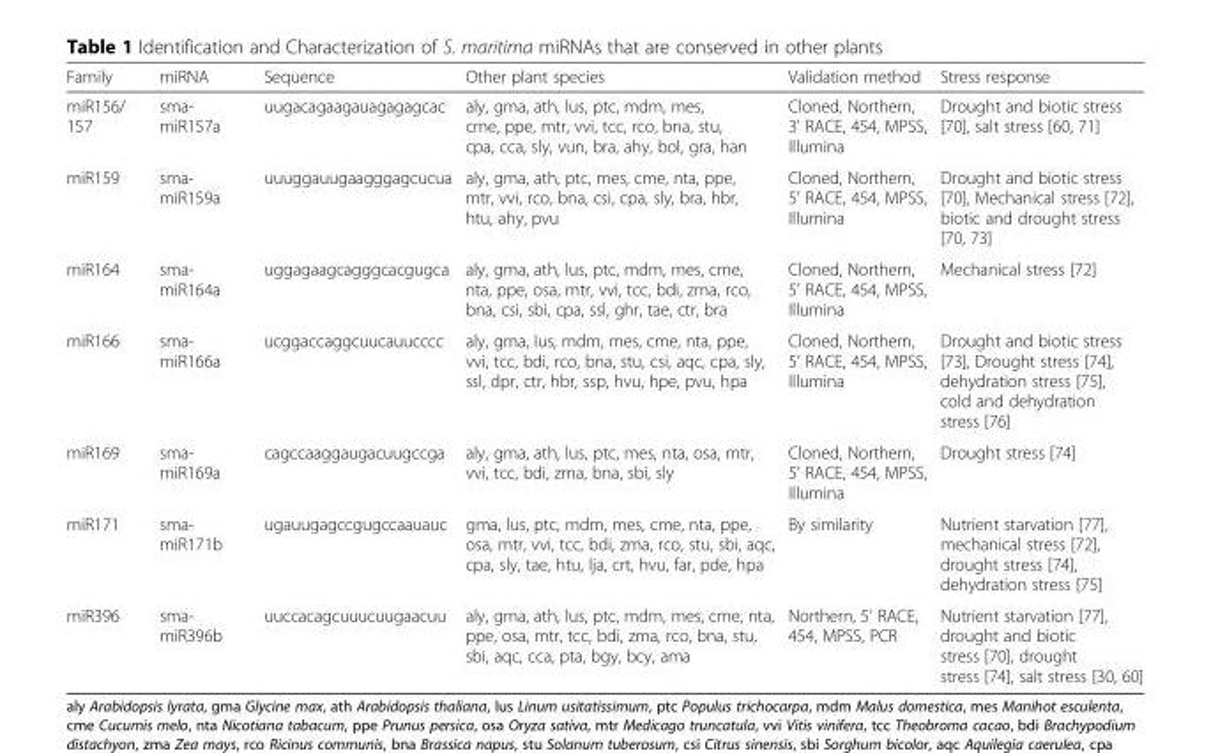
<table><thead><tr><td>Family</td><td>miRNA</td><td>Sequence</td><td>Other plant species</td><td>Validation method</td><td>Stress response</td></tr></thead><tbody><tr><td>miR156/ 157</td><td>sma- miR157a</td><td>uugacagaagauagagagcac</td><td>aly, gma, ath, lus, ptc, mdm, mes, cme, ppe, mtr, vvi, tcc, rco, bna, stu, cpa, cca, sly, vun, bra, ahy, bol, gra, han</td><td>Cloned, Northern, 3’ RACE, 454, MPSS, Illumina</td><td>Drought and biotic stress [70], salt stress [60, 71]</td></tr><tr><td>miR159</td><td>sma- miR159a</td><td>uuuggauugaagggagcucua</td><td>aly, gma, ath, ptc, mes, cme, nta, ppe, mtr, vvi, rco, bna, csi, cpa, sly, bra, hbr, htu, ahy, pvu</td><td>Cloned, Northern, 5’ RACE, 454, MPSS, Illumina</td><td>Drought and biotic stress [70], Mechanical stress [72], biotic and drought stress [70, 73]</td></tr><tr><td>miR164</td><td>sma- miR164a</td><td>uggagaagcagggcacgugca</td><td>aly, gma, ath, lus, ptc, mdm, mes, cme, nta, ppe, osa, mtr, vvi, tcc, bdi, zma, rco, bna, csi, sbi, cpa, ssl, ghr, tae, ctr, bra</td><td>Cloned, Northern, 5’ RACE, 454, MPSS, Illumina</td><td>Mechanical stress [72]</td></tr><tr><td>miR166</td><td>sma- miR166a</td><td>ucggaccaggcuucauucccc</td><td>aly, gma, lus, mdm, mes, cme, nta, ppe, vvi, tcc, bdi, rco, bna, stu, csi, aqc, cpa, sly, ssl, dpr, ctr, hbr, ssp, hvu, hpe, pvu, hpa</td><td>Cloned, Northern, 5’ RACE, 454, MPSS, Illumina</td><td>Drought and biotic stress [73], Drought stress [74], dehydration stress [75], cold and dehydration stress [76]</td></tr><tr><td>miR169</td><td>sma- miR169a</td><td>cagccaaggaugacuugccga</td><td>aly, gma, ath, lus, ptc, mes, nta, osa, mtr, vvi, tcc, bdi, zma, bna, sbi, sly</td><td>Cloned, Northern, 5’ RACE, 454, MPSS, Illumina</td><td>Drought stress [74]</td></tr><tr><td>miR171</td><td>sma- miR171b</td><td>ugauugagccgugccaauauc</td><td>gma, lus, ptc, mdm, mes, cme, nta, ppe, osa, mtr, vvi, tcc, bdi, zma, rco, stu, sbi, aqc, cpa, sly, tae, htu, lja, crt, hvu, far, pde, hpa</td><td>By similarity</td><td>Nutrient starvation [77], mechanical stress [72], drought stress [74], dehydration stress [75]</td></tr><tr><td>miR396</td><td>sma- miR396b</td><td>uuccacagcuuucuugaacuu</td><td>aly, gma, ath, lus, ptc, mdm, mes, cme, nta, ppe, osa, mtr, tcc, bdi, zma, rco, bna, stu, sbi, aqc, cca, pta, bgy, bcy, ama</td><td>Northern, 5’ RACE, 454, MPSS, PCR</td><td>Nutrient starvation [77], drought and biotic stress [70], drought stress [74], salt stress [30, 60]</td></tr></tbody></table>